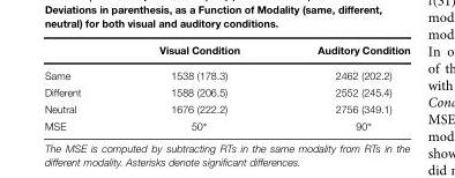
<table><thead><tr><td></td><td>Visual Condition</td><td>Auditory Condition</td></tr></thead><tbody><tr><td>Same</td><td>1538 (178.3)</td><td>2462 (202.2)</td></tr><tr><td>Different</td><td>1588 (206.5)</td><td>2552 (245.4)</td></tr><tr><td>Neutral</td><td>1676 (222.2)</td><td>2756 (349.1)</td></tr><tr><td>MSE</td><td>50∗</td><td>90∗</td></tr></tbody></table>